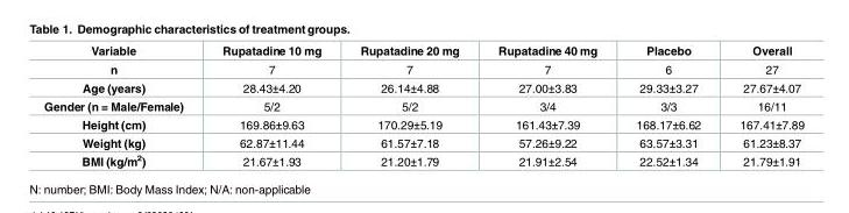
<table><thead><tr><td>Variable</td><td>Rupatadine 10 mg</td><td>Rupatadine 20 mg</td><td>Rupatadine 40 mg</td><td>Placebo</td><td>Overall</td></tr></thead><tbody><tr><td>n</td><td>7</td><td>7</td><td>7</td><td>6</td><td>27</td></tr><tr><td>Age (years)</td><td>28.43±4.20</td><td>26.14±4.88</td><td>27.00±3.83</td><td>29.33±3.27</td><td>27.67±4.07</td></tr><tr><td>Gender (n = Male/Female)</td><td>5/2</td><td>5/2</td><td>3/4</td><td>3/3</td><td>16/11</td></tr><tr><td>Height (cm)</td><td>169.86±9.63</td><td>170.29±5.19</td><td>161.43±7.39</td><td>168.17±6.62</td><td>167.41±7.89</td></tr><tr><td>Weight (kg)</td><td>62.87±11.44</td><td>61.57±7.18</td><td>57.26±9.22</td><td>63.57±3.31</td><td>61.23±8.37</td></tr><tr><td>BMI (kg/m<sup>2</sup>)</td><td>21.67±1.93</td><td>21.20±1.79</td><td>21.91±2.54</td><td>22.52±1.34</td><td>21.79±1.91</td></tr></tbody></table>